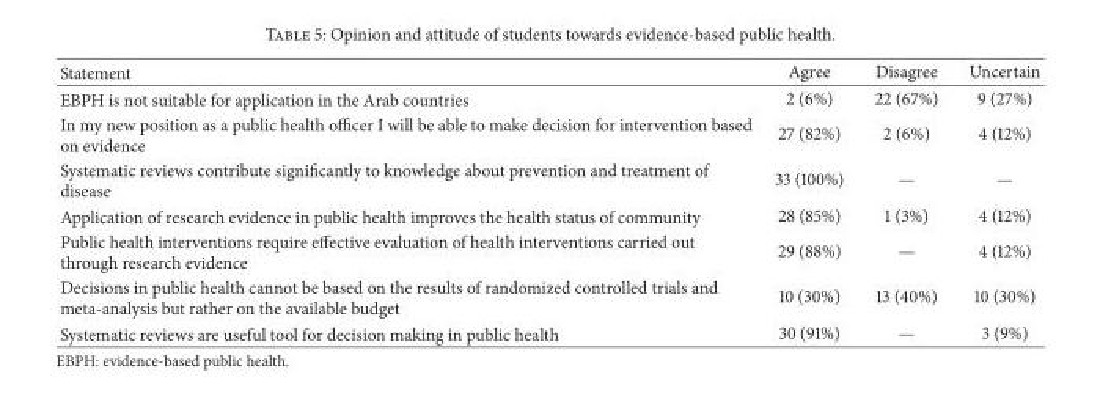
<table><thead><tr><td>Statement</td><td>Agree</td><td>Disagree</td><td>Uncertain</td></tr></thead><tbody><tr><td>EBPH is not suitable for application in the Arab countries</td><td>2 (6%)</td><td>22 (67%)</td><td>9 (27%)</td></tr><tr><td>In my new position as a public health officer I will be able to make decision for intervention based on evidence</td><td>27 (82%)</td><td>2 (6%)</td><td>4 (12%)</td></tr><tr><td>Systematic reviews contribute significantly to knowledge about prevention and treatment of disease</td><td>33 (100%)</td><td>—</td><td>—</td></tr><tr><td>Application of research evidence in public health improves the health status of community</td><td>28 (85%)</td><td>1 (3%)</td><td>4 (12%)</td></tr><tr><td>Public health interventions require effective evaluation of health interventions carried out through research evidence</td><td>29 (88%)</td><td>—</td><td>4 (12%)</td></tr><tr><td>Decisions in public health cannot be based on the results of randomized controlled trials and meta-analysis but rather on the available budget</td><td>10 (30%)</td><td>13 (40%)</td><td>10 (30%)</td></tr><tr><td>Systematic reviews are useful tool for decision making in public health</td><td>30 (91%)</td><td>—</td><td>3 (9%)</td></tr></tbody></table>